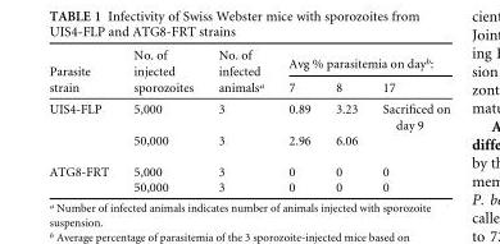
<table><thead><tr><td rowspan="2">Parasite strain</td><td rowspan="2">No. of injected sporozoites</td><td rowspan="2">No. of infected animals<sup>a</sup></td><td colspan="3">Avg % parasitemia on day<sup>b</sup>:</td></tr><tr><td>7</td><td>8</td><td>17</td></tr></thead><tbody><tr><td rowspan="2">UIS4-FLP</td><td>5,000</td><td>3</td><td>0.89</td><td>3.23</td><td>Sacrificed on day 9</td></tr><tr><td>50,000</td><td>3</td><td>2.96</td><td>6.06</td><td></td></tr><tr><td rowspan="2">ATG8-FRT</td><td>5,000</td><td>3</td><td>0</td><td>0</td><td>0</td></tr><tr><td>50,000</td><td>3</td><td>0</td><td>0</td><td>0</td></tr></tbody></table>